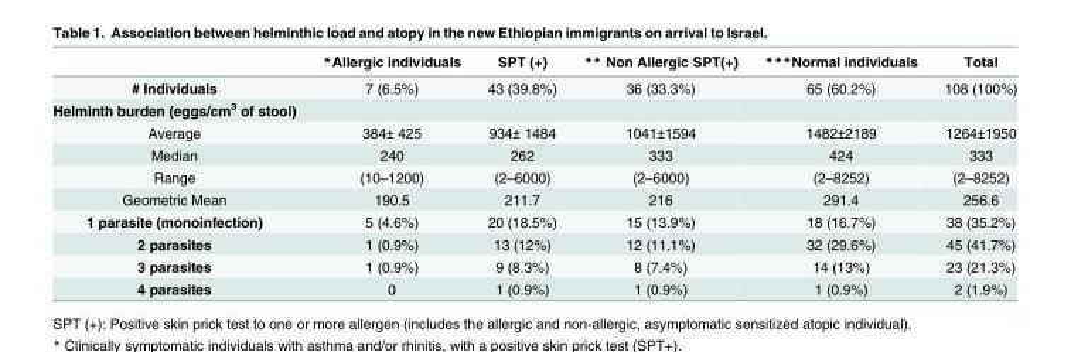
<table><thead><tr><td></td><td>*Allergic individuals</td><td>SPT (+)</td><td>** Non Allergic SPT(+)</td><td>***Normal individuals</td><td>Total</td></tr></thead><tbody><tr><td># Individuals</td><td>7 (6.5%)</td><td>43 (39.8%)</td><td>36 (33.3%)</td><td>65 (60.2%)</td><td>108 (100%)</td></tr><tr><td colspan="6">Helminth burden (eggs/cm<sup>3</sup> of stool)</td></tr><tr><td>Average</td><td>384± 425</td><td>934± 1484</td><td>1041±1594</td><td>1482±2189</td><td>1264±1950</td></tr><tr><td>Median</td><td>240</td><td>262</td><td>333</td><td>424</td><td>333</td></tr><tr><td>Range</td><td>(10–1200)</td><td>(2–6000)</td><td>(2–6000)</td><td>(2–8252)</td><td>(2–8252)</td></tr><tr><td>Geometric Mean</td><td>190.5</td><td>211.7</td><td>216</td><td>291.4</td><td>256.6</td></tr><tr><td>1 parasite (monoinfection)</td><td>5 (4.6%)</td><td>20 (18.5%)</td><td>15 (13.9%)</td><td>18 (16.7%)</td><td>38 (35.2%)</td></tr><tr><td>2 parasites</td><td>1 (0.9%)</td><td>13 (12%)</td><td>12 (11.1%)</td><td>32 (29.6%)</td><td>45 (41.7%)</td></tr><tr><td>3 parasites</td><td>1 (0.9%)</td><td>9 (8.3%)</td><td>8 (7.4%)</td><td>14 (13%)</td><td>23 (21.3%)</td></tr><tr><td>4 parasites</td><td>0</td><td>1 (0.9%)</td><td>1 (0.9%)</td><td>1 (0.9%)</td><td>2 (1.9%)</td></tr></tbody></table>